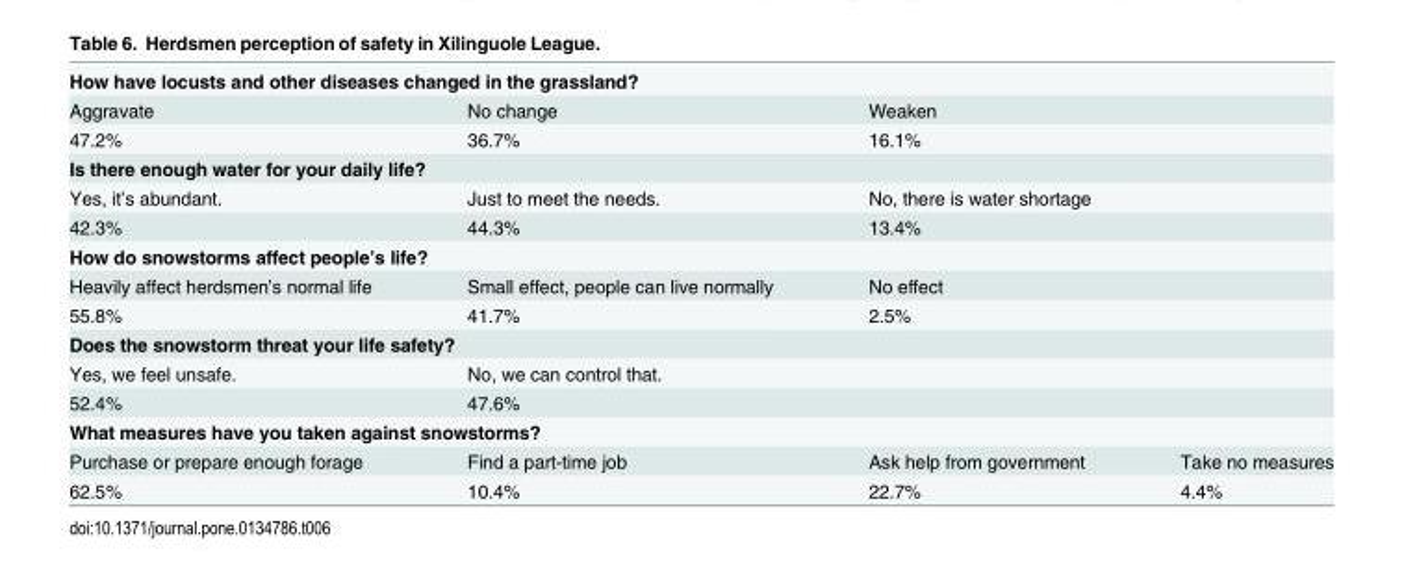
<table><tbody><tr><td colspan="4">How have locusts and other diseases changed in the grassland?</td></tr><tr><td>Aggravate</td><td>No change</td><td colspan="2">Weaken</td></tr><tr><td>47.2%</td><td>36.7%</td><td colspan="2">16.1%</td></tr><tr><td colspan="4">Is there enough water for your daily life?</td></tr><tr><td>Yes, it’s abundant.</td><td>Just to meet the needs.</td><td colspan="2">No, there is water shortage</td></tr><tr><td>42.3%</td><td>44.3%</td><td colspan="2">13.4%</td></tr><tr><td colspan="4">How do snowstorms affect people’s life?</td></tr><tr><td>Heavily affect herdsmen’s normal life</td><td>Small effect, people can live normally</td><td colspan="2">No effect</td></tr><tr><td>55.8%</td><td>41.7%</td><td colspan="2">2.5%</td></tr><tr><td colspan="4">Does the snowstorm threat your life safety?</td></tr><tr><td>Yes, we feel unsafe.</td><td>No, we can control that.</td><td colspan="2"></td></tr><tr><td>52.4%</td><td>47.6%</td><td colspan="2"></td></tr><tr><td colspan="4">What measures have you taken against snowstorms?</td></tr><tr><td>Purchase or prepare enough forage</td><td>Find a part-time job</td><td>Ask help from government</td><td>Take no measures</td></tr><tr><td>62.5%</td><td>10.4%</td><td>22.7%</td><td>4.4%</td></tr></tbody></table>